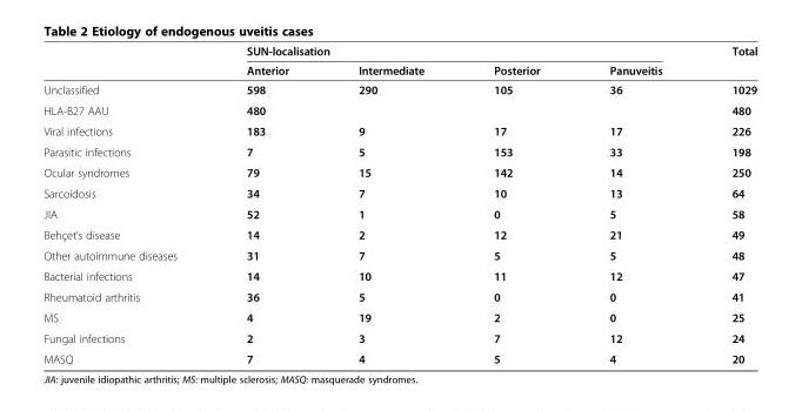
<table><thead><tr><td rowspan="2"></td><td colspan="4">SUN-localisation</td><td rowspan="2">Total</td></tr><tr><td>Anterior</td><td>Intermediate</td><td>Posterior</td><td>Panuveitis</td></tr></thead><tbody><tr><td>Unclassified</td><td>598</td><td>290</td><td>105</td><td>36</td><td>1029</td></tr><tr><td>HLA-B27 AAU</td><td>480</td><td></td><td></td><td></td><td>480</td></tr><tr><td>Viral infections</td><td>183</td><td>9</td><td>17</td><td>17</td><td>226</td></tr><tr><td>Parasitic infections</td><td>7</td><td>5</td><td>153</td><td>33</td><td>198</td></tr><tr><td>Ocular syndromes</td><td>79</td><td>15</td><td>142</td><td>14</td><td>250</td></tr><tr><td>Sarcoidosis</td><td>34</td><td>7</td><td>10</td><td>13</td><td>64</td></tr><tr><td>JIA</td><td>52</td><td>1</td><td>0</td><td>5</td><td>58</td></tr><tr><td>Behçet’s disease</td><td>14</td><td>2</td><td>12</td><td>21</td><td>49</td></tr><tr><td>Other autoimmune diseases</td><td>31</td><td>7</td><td>5</td><td>5</td><td>48</td></tr><tr><td>Bacterial infections</td><td>14</td><td>10</td><td>11</td><td>12</td><td>47</td></tr><tr><td>Rheumatoid arthritis</td><td>36</td><td>5</td><td>0</td><td>0</td><td>41</td></tr><tr><td>MS</td><td>4</td><td>19</td><td>2</td><td>0</td><td>25</td></tr><tr><td>Fungal infections</td><td>2</td><td>3</td><td>7</td><td>12</td><td>24</td></tr><tr><td>MASQ</td><td>7</td><td>4</td><td>5</td><td>4</td><td>20</td></tr></tbody></table>